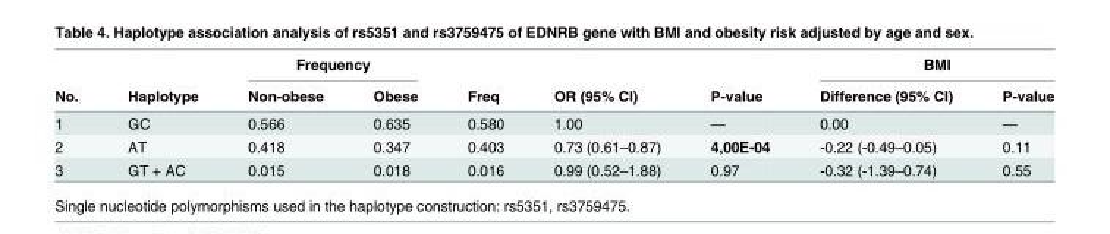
<table><thead><tr><td rowspan="2">No.</td><td rowspan="2">Haplotype</td><td colspan="2">Frequency</td><td rowspan="2">Freq</td><td rowspan="2">OR (95% CI)</td><td rowspan="2">P-value</td><td colspan="2">BMI</td></tr><tr><td>Non-obese</td><td>Obese</td><td>Difference (95% CI)</td><td>P-value</td></tr></thead><tbody><tr><td>1</td><td>GC</td><td>0.566</td><td>0.635</td><td>0.580</td><td>1.00</td><td>—</td><td>0.00</td><td>—</td></tr><tr><td>2</td><td>AT</td><td>0.418</td><td>0.347</td><td>0.403</td><td>0.73 (0.61–0.87)</td><td>4,00E-04</td><td>-0.22 (-0.49–0.05)</td><td>0.11</td></tr><tr><td>3</td><td>GT + AC</td><td>0.015</td><td>0.018</td><td>0.016</td><td>0.99 (0.52–1.88)</td><td>0.97</td><td>-0.32 (-1.39–0.74)</td><td>0.55</td></tr></tbody></table>